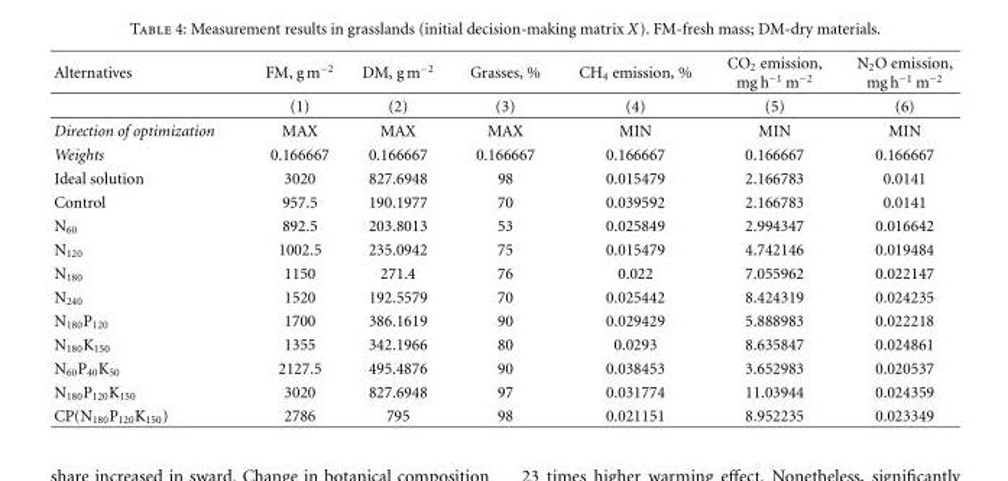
<table><thead><tr><td>Alternatives</td><td>FM, g m<sup>−2</sup></td><td>DM, g m<sup>−2</sup></td><td>Grasses, %</td><td>CH<sub>4</sub> emission, %</td><td>CO<sub>2</sub> emission, mg h<sup>−1</sup> m<sup>−2</sup></td><td>N<sub>2</sub>O emission, mg h<sup>−1</sup> m<sup>−2</sup></td></tr></thead><tbody><tr><td></td><td>(1)</td><td>(2)</td><td>(3)</td><td>(4)</td><td>(5)</td><td>(6)</td></tr><tr><td>Direction of optimization</td><td>MAX</td><td>MAX</td><td>MAX</td><td>MIN</td><td>MIN</td><td>MIN</td></tr><tr><td>Weights</td><td>0.166667</td><td>0.166667</td><td>0.166667</td><td>0.166667</td><td>0.166667</td><td>0.166667</td></tr><tr><td>Ideal solution</td><td>3020</td><td>827.6948</td><td>98</td><td>0.015479</td><td>2.166783</td><td>0.0141</td></tr><tr><td>Control</td><td>957.5</td><td>190.1977</td><td>70</td><td>0.039592</td><td>2.166783</td><td>0.0141</td></tr><tr><td>N<sub>60</sub></td><td>892.5</td><td>203.8013</td><td>53</td><td>0.025849</td><td>2.994347</td><td>0.016642</td></tr><tr><td>N<sub>120</sub></td><td>1002.5</td><td>235.0942</td><td>75</td><td>0.015479</td><td>4.742146</td><td>0.019484</td></tr><tr><td>N<sub>180</sub></td><td>1150</td><td>271.4</td><td>76</td><td>0.022</td><td>7.055962</td><td>0.022147</td></tr><tr><td>N<sub>240</sub></td><td>1520</td><td>192.5579</td><td>70</td><td>0.025442</td><td>8.424319</td><td>0.024235</td></tr><tr><td>N<sub>180</sub>P<sub>120</sub></td><td>1700</td><td>386.1619</td><td>90</td><td>0.029429</td><td>5.888983</td><td>0.022218</td></tr><tr><td>N<sub>180</sub>K<sub>150</sub></td><td>1355</td><td>342.1966</td><td>80</td><td>0.0293</td><td>8.635847</td><td>0.024861</td></tr><tr><td>N<sub>60</sub>P<sub>40</sub>K<sub>50</sub></td><td>2127.5</td><td>495.4876</td><td>90</td><td>0.038453</td><td>3.652983</td><td>0.020537</td></tr><tr><td>N<sub>180</sub>P<sub>120</sub>K<sub>150</sub></td><td>3020</td><td>827.6948</td><td>97</td><td>0.031774</td><td>11.03944</td><td>0.024359</td></tr><tr><td>CP(N<sub>180</sub>P<sub>120</sub>K<sub>150</sub>)</td><td>2786</td><td>795</td><td>98</td><td>0.021151</td><td>8.952235</td><td>0.023349</td></tr></tbody></table>